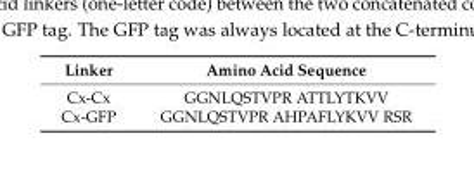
<table><thead><tr><td>Linker</td><td>Amino Acid Sequence</td></tr></thead><tbody><tr><td>Cx-Cx</td><td>GGNLQSTVPR ATTLYTKVV</td></tr><tr><td>Cx-GFP</td><td>GGNLQSTVPR AHPAFLYKVV RSR</td></tr></tbody></table>